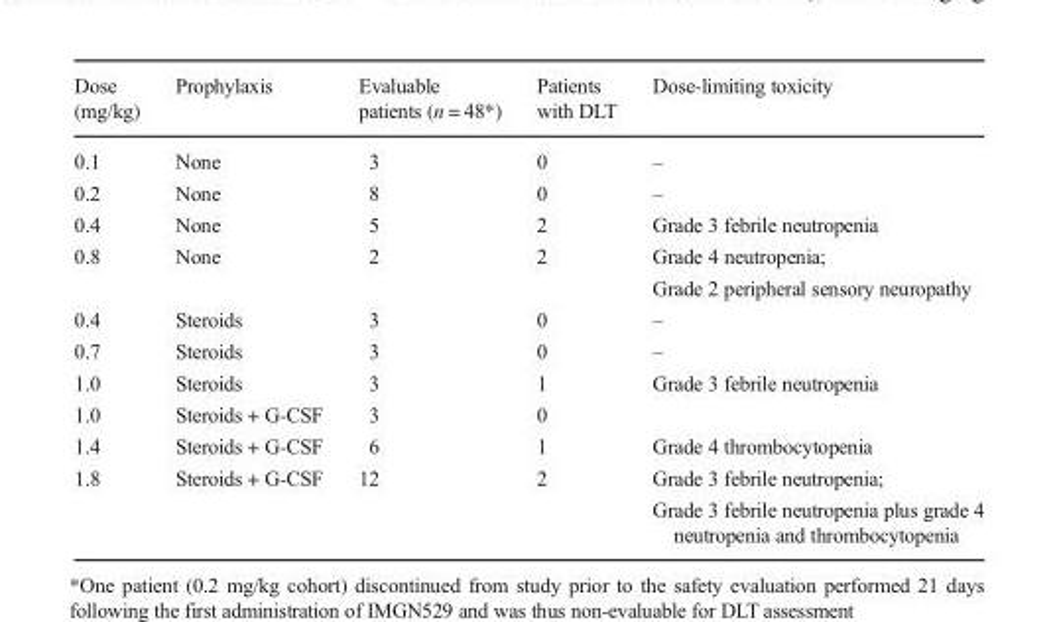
<table><thead><tr><td>Dose (mg/kg)</td><td>Prophylaxis</td><td>Evaluable patients (n = 48*)</td><td>Patients with DLT</td><td>Dose-limiting toxicity</td></tr></thead><tbody><tr><td>0.1</td><td>None</td><td>3</td><td>0</td><td>–</td></tr><tr><td>0.2</td><td>None</td><td>8</td><td>0</td><td>–</td></tr><tr><td>0.4</td><td>None</td><td>5</td><td>2</td><td>Grade 3 febrile neutropenia</td></tr><tr><td>0.8</td><td>None</td><td>2</td><td>2</td><td>Grade 4 neutropenia; Grade 2 peripheral sensory neuropathy</td></tr><tr><td>0.4</td><td>Steroids</td><td>3</td><td>0</td><td>–</td></tr><tr><td>0.7</td><td>Steroids</td><td>3</td><td>0</td><td>–</td></tr><tr><td>1.0</td><td>Steroids</td><td>3</td><td>1</td><td>Grade 3 febrile neutropenia</td></tr><tr><td>1.0</td><td>Steroids + G-CSF</td><td>3</td><td>0</td><td></td></tr><tr><td>1.4</td><td>Steroids + G-CSF</td><td>6</td><td>1</td><td>Grade 4 thrombocytopenia</td></tr><tr><td>1.8</td><td>Steroids + G-CSF</td><td>12</td><td>2</td><td>Grade 3 febrile neutropenia; Grade 3 febrile neutropenia plus grade 4 neutropenia and thrombocytopenia</td></tr></tbody></table>